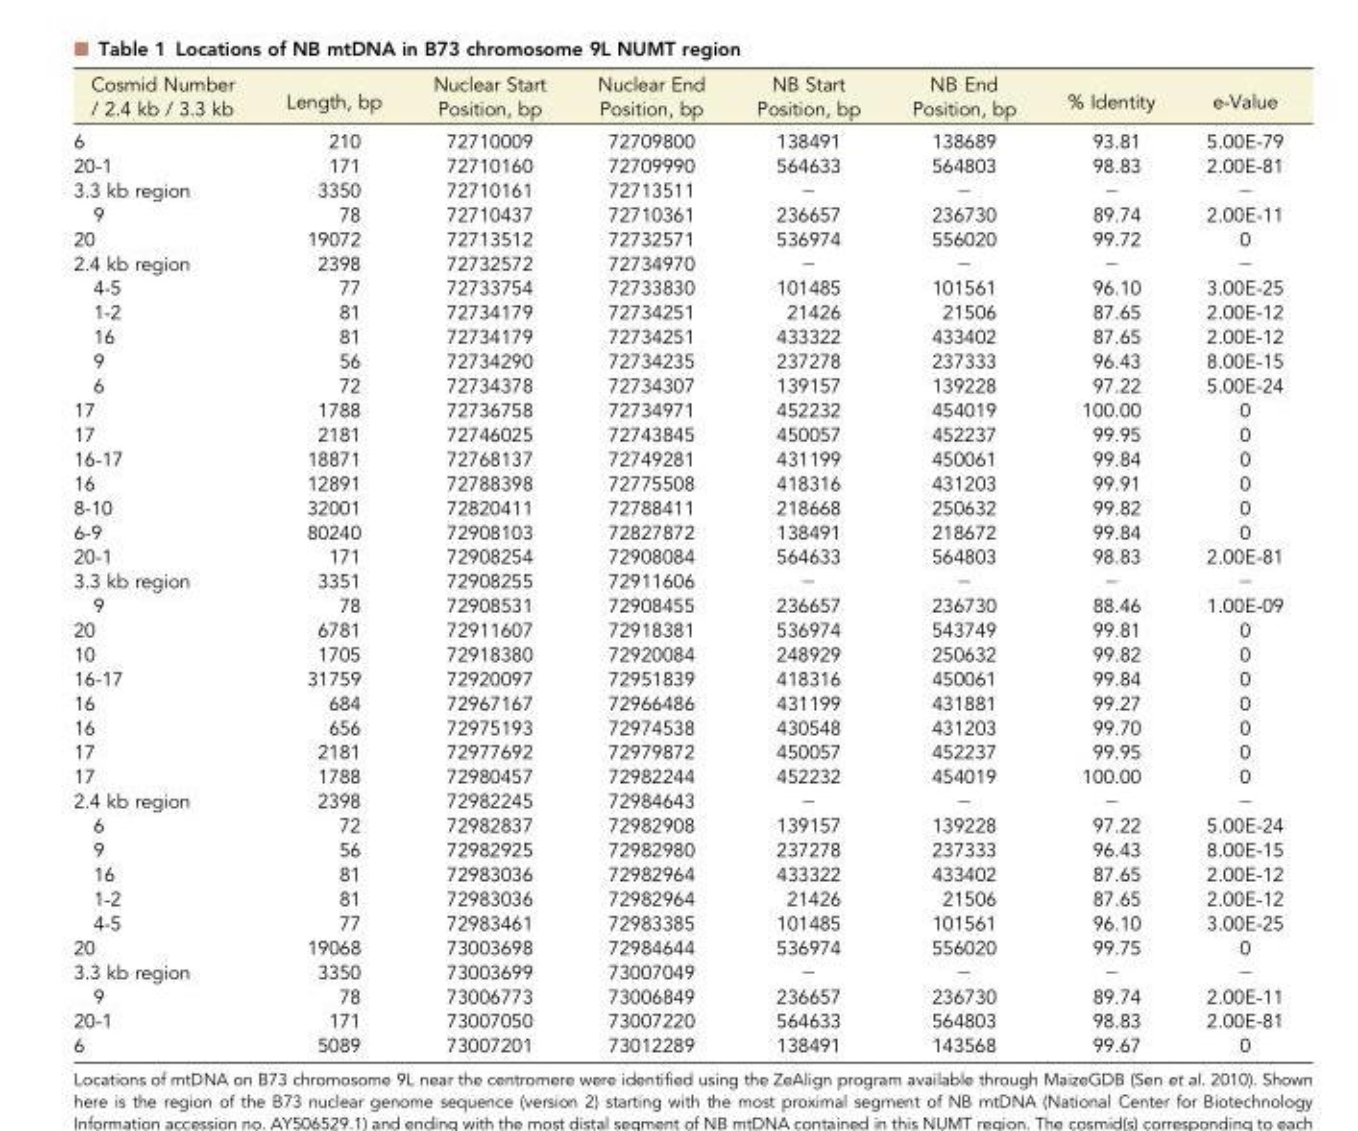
<table><thead><tr><td>Cosmid Number / 2.4 kb / 3.3 kb</td><td>Length, bp</td><td>Nuclear Start Position, bp</td><td>Nuclear End Position, bp</td><td>NB Start Position, bp</td><td>NB End Position, bp</td><td>% Identity</td><td>e-Value</td></tr></thead><tbody><tr><td>6</td><td>210</td><td>72710009</td><td>72709800</td><td>138491</td><td>138689</td><td>93.81</td><td>5.00E-79</td></tr><tr><td>20-1</td><td>171</td><td>72710160</td><td>72709990</td><td>564633</td><td>564803</td><td>98.83</td><td>2.00E-81</td></tr><tr><td>3.3 kb region</td><td>3350</td><td>72710161</td><td>72713511</td><td>−</td><td>−</td><td>−</td><td>−</td></tr><tr><td>9</td><td>78</td><td>72710437</td><td>72710361</td><td>236657</td><td>236730</td><td>89.74</td><td>2.00E-11</td></tr><tr><td>20</td><td>19072</td><td>72713512</td><td>72732571</td><td>536974</td><td>556020</td><td>99.72</td><td>0</td></tr><tr><td>2.4 kb region</td><td>2398</td><td>72732572</td><td>72734970</td><td>−</td><td>−</td><td>−</td><td>−</td></tr><tr><td>4-5</td><td>77</td><td>72733754</td><td>72733830</td><td>101485</td><td>101561</td><td>96.10</td><td>3.00E-25</td></tr><tr><td>1-2</td><td>81</td><td>72734179</td><td>72734251</td><td>21426</td><td>21506</td><td>87.65</td><td>2.00E-12</td></tr><tr><td>16</td><td>81</td><td>72734179</td><td>72734251</td><td>433322</td><td>433402</td><td>87.65</td><td>2.00E-12</td></tr><tr><td>9</td><td>56</td><td>72734290</td><td>72734235</td><td>237278</td><td>237333</td><td>96.43</td><td>8.00E-15</td></tr><tr><td>6</td><td>72</td><td>72734378</td><td>72734307</td><td>139157</td><td>139228</td><td>97.22</td><td>5.00E-24</td></tr><tr><td>17</td><td>1788</td><td>72736758</td><td>72734971</td><td>452232</td><td>454019</td><td>100.00</td><td>0</td></tr><tr><td>17</td><td>2181</td><td>72746025</td><td>72743845</td><td>450057</td><td>452237</td><td>99.95</td><td>0</td></tr><tr><td>16-17</td><td>18871</td><td>72768137</td><td>72749281</td><td>431199</td><td>450061</td><td>99.84</td><td>0</td></tr><tr><td>16</td><td>12891</td><td>72788398</td><td>72775508</td><td>418316</td><td>431203</td><td>99.91</td><td>0</td></tr><tr><td>8-10</td><td>32001</td><td>72820411</td><td>72788411</td><td>218668</td><td>250632</td><td>99.82</td><td>0</td></tr><tr><td>6-9</td><td>80240</td><td>72908103</td><td>72827872</td><td>138491</td><td>218672</td><td>99.84</td><td>0</td></tr><tr><td>20-1</td><td>171</td><td>72908254</td><td>72908084</td><td>564633</td><td>564803</td><td>98.83</td><td>2.00E-81</td></tr><tr><td>3.3 kb region</td><td>3351</td><td>72908255</td><td>72911606</td><td>−</td><td>−</td><td>−</td><td>−</td></tr><tr><td>9</td><td>78</td><td>72908531</td><td>72908455</td><td>236657</td><td>236730</td><td>88.46</td><td>1.00E-09</td></tr><tr><td>20</td><td>6781</td><td>72911607</td><td>72918381</td><td>536974</td><td>543749</td><td>99.81</td><td>0</td></tr><tr><td>10</td><td>1705</td><td>72918380</td><td>72920084</td><td>248929</td><td>250632</td><td>99.82</td><td>0</td></tr><tr><td>16-17</td><td>31759</td><td>72920097</td><td>72951839</td><td>418316</td><td>450061</td><td>99.84</td><td>0</td></tr><tr><td>16</td><td>684</td><td>72967167</td><td>72966486</td><td>431199</td><td>431881</td><td>99.27</td><td>0</td></tr><tr><td>16</td><td>656</td><td>72975193</td><td>72974538</td><td>430548</td><td>431203</td><td>99.70</td><td>0</td></tr><tr><td>17</td><td>2181</td><td>72977692</td><td>72979872</td><td>450057</td><td>452237</td><td>99.95</td><td>0</td></tr><tr><td>17</td><td>1788</td><td>72980457</td><td>72982244</td><td>452232</td><td>454019</td><td>100.00</td><td>0</td></tr><tr><td>2.4 kb region</td><td>2398</td><td>72982245</td><td>72984643</td><td>−</td><td>−</td><td>−</td><td>−</td></tr><tr><td>6</td><td>72</td><td>72982837</td><td>72982908</td><td>139157</td><td>139228</td><td>97.22</td><td>5.00E-24</td></tr><tr><td>9</td><td>56</td><td>72982925</td><td>72982980</td><td>237278</td><td>237333</td><td>96.43</td><td>8.00E-15</td></tr><tr><td>16</td><td>81</td><td>72983036</td><td>72982964</td><td>433322</td><td>433402</td><td>87.65</td><td>2.00E-12</td></tr><tr><td>1-2</td><td>81</td><td>72983036</td><td>72982964</td><td>21426</td><td>21506</td><td>87.65</td><td>2.00E-12</td></tr><tr><td>4-5</td><td>77</td><td>72983461</td><td>72983385</td><td>101485</td><td>101561</td><td>96.10</td><td>3.00E-25</td></tr><tr><td>20</td><td>19068</td><td>73003698</td><td>72984644</td><td>536974</td><td>556020</td><td>99.75</td><td>0</td></tr><tr><td>3.3 kb region</td><td>3350</td><td>73003699</td><td>73007049</td><td>−</td><td>−</td><td>−</td><td>−</td></tr><tr><td>9</td><td>78</td><td>73006773</td><td>73006849</td><td>236657</td><td>236730</td><td>89.74</td><td>2.00E-11</td></tr><tr><td>20-1</td><td>171</td><td>73007050</td><td>73007220</td><td>564633</td><td>564803</td><td>98.83</td><td>2.00E-81</td></tr><tr><td>6</td><td>5089</td><td>73007201</td><td>73012289</td><td>138491</td><td>143568</td><td>99.67</td><td>0</td></tr></tbody></table>